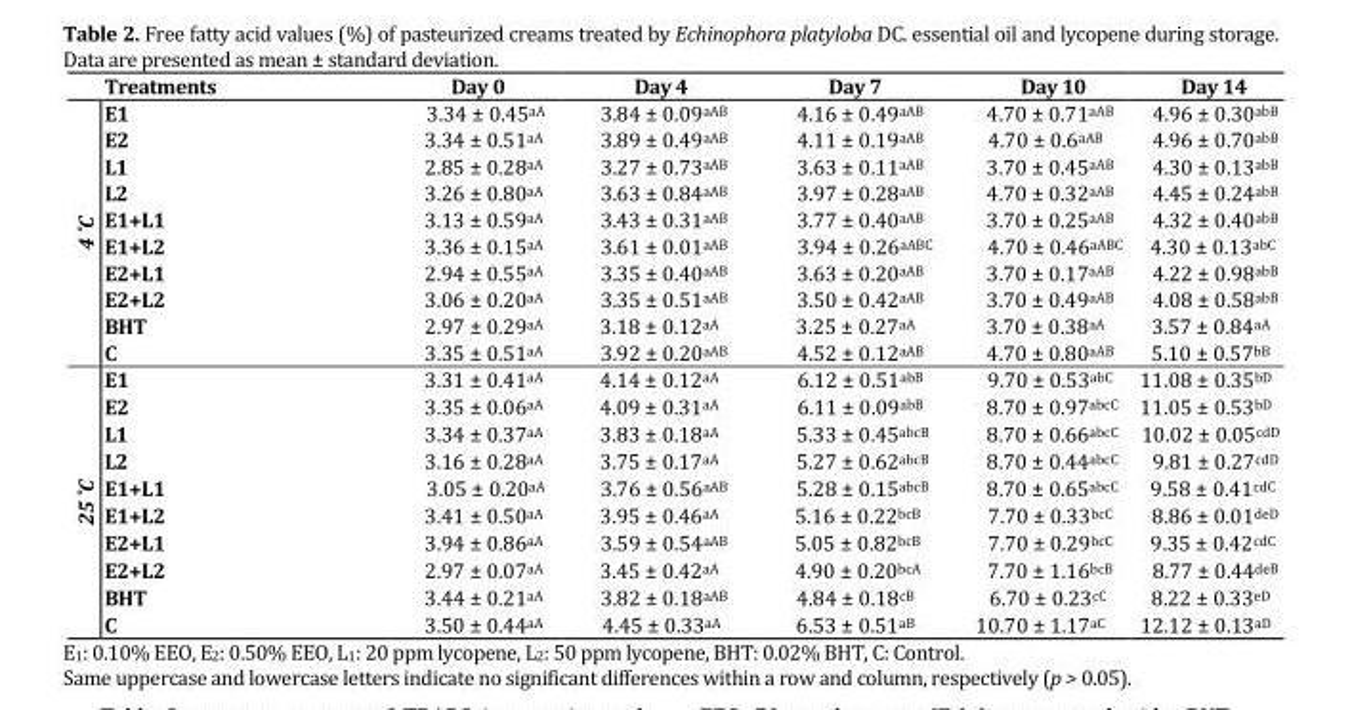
<table><thead><tr><td></td><td>Treatments</td><td>Day 0</td><td>Day 4</td><td>Day 7</td><td>Day 10</td><td>Day 14</td></tr></thead><tbody><tr><td rowspan="10">4 ˚C</td><td>E1</td><td>3.34 ± 0.45<sup>aA</sup></td><td>3.84 ± 0.09<sup>aAB</sup></td><td>4.16 ± 0.49<sup>aAB</sup></td><td>4.70 ± 0.71<sup>aAB</sup></td><td>4.96 ± 0.30<sup>abB</sup></td></tr><tr><td>E2</td><td>3.34 ± 0.51<sup>aA</sup></td><td>3.89 ± 0.49<sup>aAB</sup></td><td>4.11 ± 0.19<sup>aAB</sup></td><td>4.70 ± 0.6<sup>aAB</sup></td><td>4.96 ± 0.70<sup>abB</sup></td></tr><tr><td>L1</td><td>2.85 ± 0.28<sup>aA</sup></td><td>3.27 ± 0.73<sup>aAB</sup></td><td>3.63 ± 0.11<sup>aAB</sup></td><td>3.70 ± 0.45<sup>aAB</sup></td><td>4.30 ± 0.13<sup>abB</sup></td></tr><tr><td>L2</td><td>3.26 ± 0.80<sup>aA</sup></td><td>3.63 ± 0.84<sup>aAB</sup></td><td>3.97 ± 0.28<sup>aAB</sup></td><td>4.70 ± 0.32<sup>aAB</sup></td><td>4.45 ± 0.24<sup>abB</sup></td></tr><tr><td>E1+L1</td><td>3.13 ± 0.59<sup>aA</sup></td><td>3.43 ± 0.31<sup>aAB</sup></td><td>3.77 ± 0.40<sup>aAB</sup></td><td>3.70 ± 0.25<sup>aAB</sup></td><td>4.32 ± 0.40<sup>abB</sup></td></tr><tr><td>E1+L2</td><td>3.36 ± 0.15<sup>aA</sup></td><td>3.61 ± 0.01<sup>aAB</sup></td><td>3.94 ± 0.26<sup>aABC</sup></td><td>4.70 ± 0.46<sup>aABC</sup></td><td>4.30 ± 0.13<sup>abC</sup></td></tr><tr><td>E2+L1</td><td>2.94 ± 0.55<sup>aA</sup></td><td>3.35 ± 0.40<sup>aAB</sup></td><td>3.63 ± 0.20<sup>aAB</sup></td><td>3.70 ± 0.17<sup>aAB</sup></td><td>4.22 ± 0.98<sup>abB</sup></td></tr><tr><td>E2+L2</td><td>3.06 ± 0.20<sup>aA</sup></td><td>3.35 ± 0.51<sup>aAB</sup></td><td>3.50 ± 0.42<sup>aAB</sup></td><td>3.70 ± 0.49<sup>aAB</sup></td><td>4.08 ± 0.58<sup>abB</sup></td></tr><tr><td>BHT</td><td>2.97 ± 0.29<sup>aA</sup></td><td>3.18 ± 0.12<sup>aA</sup></td><td>3.25 ± 0.27<sup>aA</sup></td><td>3.70 ± 0.38<sup>aA</sup></td><td>3.57 ± 0.84<sup>aA</sup></td></tr><tr><td>C</td><td>3.35 ± 0.51<sup>aA</sup></td><td>3.92 ± 0.20<sup>aAB</sup></td><td>4.52 ± 0.12<sup>aAB</sup></td><td>4.70 ± 0.80<sup>aAB</sup></td><td>5.10 ± 0.57<sup>bB</sup></td></tr><tr><td rowspan="10">25 ˚C</td><td>E1</td><td>3.31 ± 0.41<sup>aA</sup></td><td>4.14 ± 0.12<sup>aA</sup></td><td>6.12 ± 0.51<sup>abB</sup></td><td>9.70 ± 0.53<sup>abC</sup></td><td>11.08 ± 0.35<sup>bD</sup></td></tr><tr><td>E2</td><td>3.35 ± 0.06<sup>aA</sup></td><td>4.09 ± 0.31<sup>aA</sup></td><td>6.11 ± 0.09<sup>abB</sup></td><td>8.70 ± 0.97<sup>abcC</sup></td><td>11.05 ± 0.53<sup>bD</sup></td></tr><tr><td>L1</td><td>3.34 ± 0.37<sup>aA</sup></td><td>3.83 ± 0.18<sup>aA</sup></td><td>5.33 ± 0.45<sup>abcB</sup></td><td>8.70 ± 0.66<sup>abcC</sup></td><td>10.02 ± 0.05<sup>cdD</sup></td></tr><tr><td>L2</td><td>3.16 ± 0.28<sup>aA</sup></td><td>3.75 ± 0.17<sup>aA</sup></td><td>5.27 ± 0.62<sup>abcB</sup></td><td>8.70 ± 0.44<sup>abcC</sup></td><td>9.81 ± 0.27<sup>cdD</sup></td></tr><tr><td>E1+L1</td><td>3.05 ± 0.20<sup>aA</sup></td><td>3.76 ± 0.56<sup>aAB</sup></td><td>5.28 ± 0.15<sup>abcB</sup></td><td>8.70 ± 0.65<sup>abcC</sup></td><td>9.58 ± 0.41<sup>cdC</sup></td></tr><tr><td>E1+L2</td><td>3.41 ± 0.50<sup>aA</sup></td><td>3.95 ± 0.46<sup>aA</sup></td><td>5.16 ± 0.22<sup>bcB</sup></td><td>7.70 ± 0.33<sup>bcC</sup></td><td>8.86 ± 0.01<sup>deD</sup></td></tr><tr><td>E2+L1</td><td>3.94 ± 0.86<sup>aA</sup></td><td>3.59 ± 0.54<sup>aAB</sup></td><td>5.05 ± 0.82<sup>bcB</sup></td><td>7.70 ± 0.29<sup>bcC</sup></td><td>9.35 ± 0.42<sup>cdC</sup></td></tr><tr><td>E2+L2</td><td>2.97 ± 0.07<sup>aA</sup></td><td>3.45 ± 0.42<sup>aA</sup></td><td>4.90 ± 0.20<sup>bcA</sup></td><td>7.70 ± 1.16<sup>bcB</sup></td><td>8.77 ± 0.44<sup>deB</sup></td></tr><tr><td>BHT</td><td>3.44 ± 0.21<sup>aA</sup></td><td>3.82 ± 0.18<sup>aAB</sup></td><td>4.84 ± 0.18<sup>cB</sup></td><td>6.70 ± 0.23<sup>cC</sup></td><td>8.22 ± 0.33<sup>eD</sup></td></tr><tr><td>C</td><td>3.50 ± 0.44<sup>aA</sup></td><td>4.45 ± 0.33<sup>aA</sup></td><td>6.53 ± 0.51<sup>aB</sup></td><td>10.70 ± 1.17<sup>aC</sup></td><td>12.12 ± 0.13<sup>aD</sup></td></tr></tbody></table>